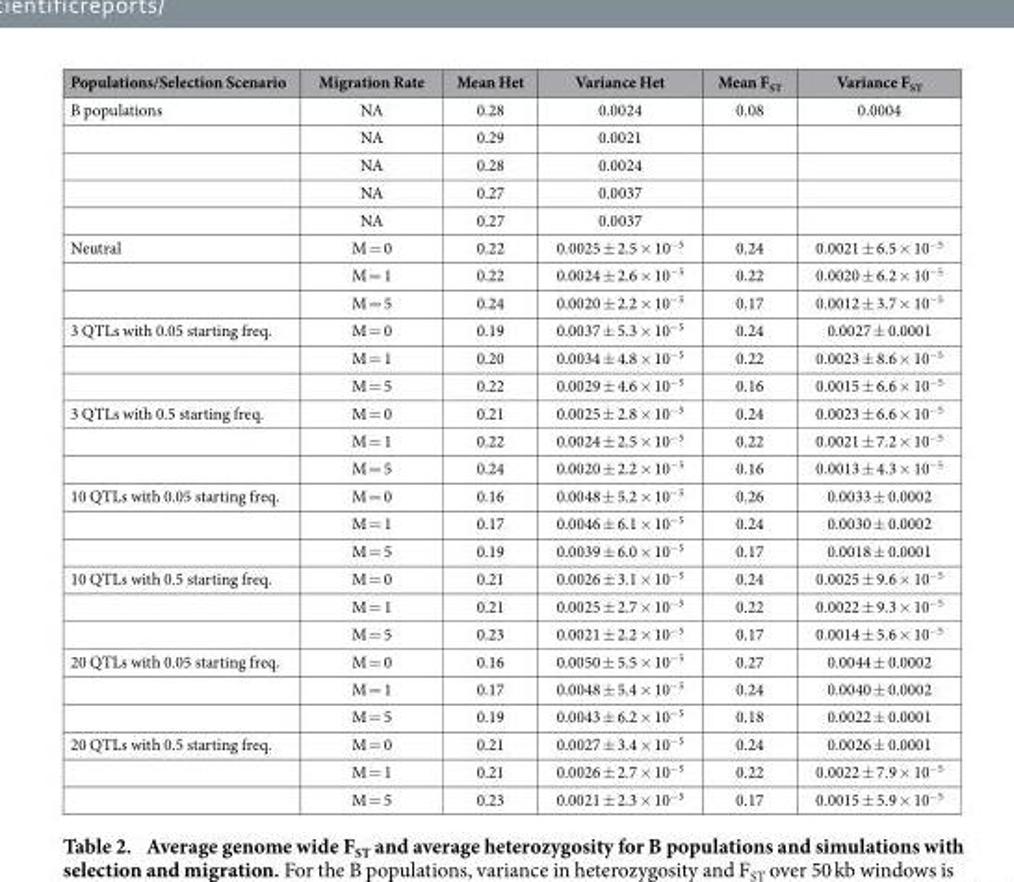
<table><thead><tr><td>Populations/Selection Scenario</td><td>Migration Rate</td><td>Mean Het</td><td>Variance Het</td><td>Mean F<sub>ST</sub></td><td>Variance F<sub>ST</sub></td></tr></thead><tbody><tr><td rowspan="5">B populations</td><td>NA</td><td>0.28</td><td>0.0024</td><td>0.08</td><td>0.0004</td></tr><tr><td>NA</td><td>0.29</td><td>0.0021</td><td></td><td></td></tr><tr><td>NA</td><td>0.28</td><td>0.0024</td><td></td><td></td></tr><tr><td>NA</td><td>0.27</td><td>0.0037</td><td></td><td></td></tr><tr><td>NA</td><td>0.27</td><td>0.0037</td><td></td><td></td></tr><tr><td rowspan="3">Neutral</td><td>M = 0</td><td>0.22</td><td>0.0025 ± 2.5 × 10<sup>−5</sup></td><td>0.24</td><td>0.0021 ± 6.5 × 10<sup>−5</sup></td></tr><tr><td>M = 1</td><td>0.22</td><td>0.0024 ± 2.6 × 10<sup>−5</sup></td><td>0.22</td><td>0.0020 ± 6.2 × 10<sup>−5</sup></td></tr><tr><td>M = 5</td><td>0.24</td><td>0.0020 ± 2.2 × 10<sup>−5</sup></td><td>0.17</td><td>0.0012 ± 3.7 × 10<sup>−5</sup></td></tr><tr><td rowspan="3">3 QTLs with 0.05 starting freq.</td><td>M = 0</td><td>0.19</td><td>0.0037 ± 5.3 × 10<sup>−5</sup></td><td>0.24</td><td>0.0027 ± 0.0001</td></tr><tr><td>M = 1</td><td>0.20</td><td>0.0034 ± 4.8 × 10<sup>−5</sup></td><td>0.22</td><td>0.0023 ± 8.6 × 10<sup>−5</sup></td></tr><tr><td>M = 5</td><td>0.22</td><td>0.0029 ± 4.6 × 10<sup>−5</sup></td><td>0.16</td><td>0.0015 ± 6.6 × 10<sup>−5</sup></td></tr><tr><td rowspan="3">3 QTLs with 0.5 starting freq.</td><td>M = 0</td><td>0.21</td><td>0.0025 ± 2.8 × 10<sup>−5</sup></td><td>0.24</td><td>0.0023 ± 6.6 × 10<sup>−5</sup></td></tr><tr><td>M = 1</td><td>0.22</td><td>0.0024 ± 2.5 × 10<sup>−5</sup></td><td>0.22</td><td>0.0021 ± 7.2 × 10<sup>−5</sup></td></tr><tr><td>M = 5</td><td>0.24</td><td>0.0020 ± 2.2 × 10<sup>−5</sup></td><td>0.16</td><td>0.0013 ± 4.3 × 10<sup>−5</sup></td></tr><tr><td rowspan="3">10 QTLs with 0.05 starting freq.</td><td>M = 0</td><td>0.16</td><td>0.0048 ± 5.2 × 10<sup>−5</sup></td><td>0.26</td><td>0.0033 ± 0.0002</td></tr><tr><td>M = 1</td><td>0.17</td><td>0.0046 ± 6.1 × 10<sup>−5</sup></td><td>0.24</td><td>0.0030 ± 0.0002</td></tr><tr><td>M = 5</td><td>0.19</td><td>0.0039 ± 6.0 × 10<sup>−5</sup></td><td>0.17</td><td>0.0018 ± 0.0001</td></tr><tr><td rowspan="3">10 QTLs with 0.5 starting freq.</td><td>M = 0</td><td>0.21</td><td>0.0026 ± 3.1 × 10<sup>−5</sup></td><td>0.24</td><td>0.0025 ± 9.6 × 10<sup>−5</sup></td></tr><tr><td>M = 1</td><td>0.21</td><td>0.0025 ± 2.7 × 10<sup>−5</sup></td><td>0.22</td><td>0.0022 ± 9.3 × 10<sup>−5</sup></td></tr><tr><td>M = 5</td><td>0.23</td><td>0.0021 ± 2.2 × 10<sup>−5</sup></td><td>0.17</td><td>0.0014 ± 5.6 × 10<sup>−5</sup></td></tr><tr><td rowspan="3">20 QTLs with 0.05 starting freq.</td><td>M = 0</td><td>0.16</td><td>0.0050 ± 5.5 × 10<sup>−5</sup></td><td>0.27</td><td>0.0044 ± 0.0002</td></tr><tr><td>M = 1</td><td>0.17</td><td>0.0048 ± 5.4 × 10<sup>−5</sup></td><td>0.24</td><td>0.0040 ± 0.0002</td></tr><tr><td>M = 5</td><td>0.19</td><td>0.0043 ± 6.2 × 10<sup>−5</sup></td><td>0.18</td><td>0.0022 ± 0.0001</td></tr><tr><td rowspan="3">20 QTLs with 0.5 starting freq.</td><td>M = 0</td><td>0.21</td><td>0.0027 ± 3.4 × 10<sup>−5</sup></td><td>0.24</td><td>0.0026 ± 0.0001</td></tr><tr><td>M = 1</td><td>0.21</td><td>0.0026 ± 2.7 × 10<sup>−5</sup></td><td>0.22</td><td>0.0022 ± 7.9 × 10<sup>−5</sup></td></tr><tr><td>M = 5</td><td>0.23</td><td>0.0021 ± 2.3 × 10<sup>−5</sup></td><td>0.17</td><td>0.0015 ± 5.9 × 10<sup>−5</sup></td></tr></tbody></table>